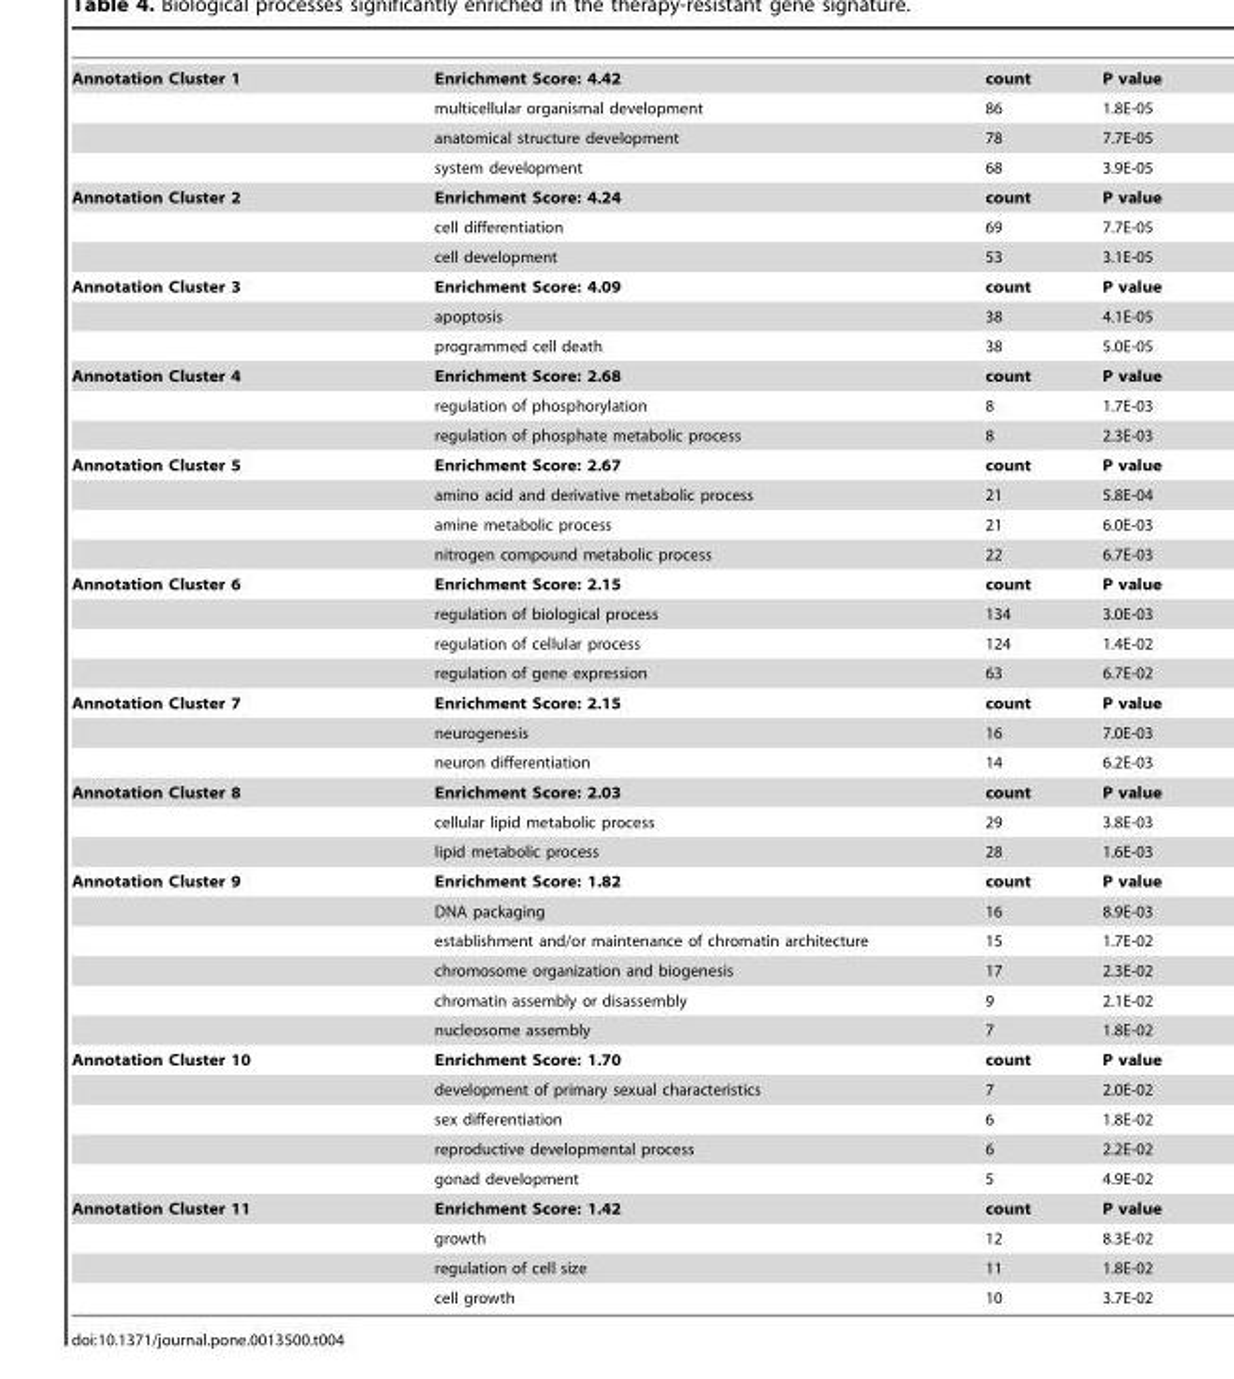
<table><tbody><tr><td rowspan="4">Annotation Cluster 1</td><td>Enrichment Score: 4.42</td><td>count</td><td>P value</td></tr><tr><td>multicellular organismal development</td><td>86</td><td>1.8E-05</td></tr><tr><td>anatomical structure development</td><td>78</td><td>7.7E-05</td></tr><tr><td>system development</td><td>68</td><td>3.9E-05</td></tr><tr><td rowspan="3">Annotation Cluster 2</td><td>Enrichment Score: 4.24</td><td>count</td><td>P value</td></tr><tr><td>cell differentiation</td><td>69</td><td>7.7E-05</td></tr><tr><td>cell development</td><td>53</td><td>3.1E-05</td></tr><tr><td rowspan="3">Annotation Cluster 3</td><td>Enrichment Score: 4.09</td><td>count</td><td>P value</td></tr><tr><td>apoptosis</td><td>38</td><td>4.1E-05</td></tr><tr><td>programmed cell death</td><td>38</td><td>5.0E-05</td></tr><tr><td rowspan="3">Annotation Cluster 4</td><td>Enrichment Score: 2.68</td><td>count</td><td>P value</td></tr><tr><td>regulation of phosphorylation</td><td>8</td><td>1.7E-03</td></tr><tr><td>regulation of phosphate metabolic process</td><td>8</td><td>2.3E-03</td></tr><tr><td rowspan="4">Annotation Cluster 5</td><td>Enrichment Score: 2.67</td><td>count</td><td>P value</td></tr><tr><td>amino acid and derivative metabolic process</td><td>21</td><td>5.8E-04</td></tr><tr><td>amine metabolic process</td><td>21</td><td>6.0E-03</td></tr><tr><td>nitrogen compound metabolic process</td><td>22</td><td>6.7E-03</td></tr><tr><td rowspan="4">Annotation Cluster 6</td><td>Enrichment Score: 2.15</td><td>count</td><td>P value</td></tr><tr><td>regulation of biological process</td><td>134</td><td>3.0E-03</td></tr><tr><td>regulation of cellular process</td><td>124</td><td>1.4E-02</td></tr><tr><td>regulation of gene expression</td><td>63</td><td>6.7E-02</td></tr><tr><td rowspan="3">Annotation Cluster 7</td><td>Enrichment Score: 2.15</td><td>count</td><td>P value</td></tr><tr><td>neurogenesis</td><td>16</td><td>7.0E-03</td></tr><tr><td>neuron differentiation</td><td>14</td><td>6.2E-03</td></tr><tr><td rowspan="3">Annotation Cluster 8</td><td>Enrichment Score: 2.03</td><td>count</td><td>P value</td></tr><tr><td>cellular lipid metabolic process</td><td>29</td><td>3.8E-03</td></tr><tr><td>lipid metabolic process</td><td>28</td><td>1.6E-03</td></tr><tr><td rowspan="6">Annotation Cluster 9</td><td>Enrichment Score: 1.82</td><td>count</td><td>P value</td></tr><tr><td>DNA packaging</td><td>16</td><td>8.9E-03</td></tr><tr><td>establishment and/or maintenance of chromatin architecture</td><td>15</td><td>1.7E-02</td></tr><tr><td>chromosome organization and biogenesis</td><td>17</td><td>2.3E-02</td></tr><tr><td>chromatin assembly or disassembly</td><td>9</td><td>2.1E-02</td></tr><tr><td>nucleosome assembly</td><td>7</td><td>1.8E-02</td></tr><tr><td rowspan="5">Annotation Cluster 10</td><td>Enrichment Score: 1.70</td><td>count</td><td>P value</td></tr><tr><td>development of primary sexual characteristics</td><td>7</td><td>2.0E-02</td></tr><tr><td>sex differentiation</td><td>6</td><td>1.8E-02</td></tr><tr><td>reproductive developmental process</td><td>6</td><td>2.2E-02</td></tr><tr><td>gonad development</td><td>5</td><td>4.9E-02</td></tr><tr><td rowspan="4">Annotation Cluster 11</td><td>Enrichment Score: 1.42</td><td>count</td><td>P value</td></tr><tr><td>growth</td><td>12</td><td>8.3E-02</td></tr><tr><td>regulation of cell size</td><td>11</td><td>1.8E-02</td></tr><tr><td>cell growth</td><td>10</td><td>3.7E-02</td></tr></tbody></table>